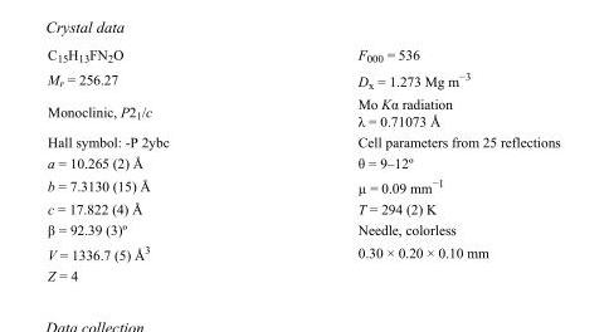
<table><tbody><tr><td>C<sub>15</sub>H<sub>13</sub>FN<sub>2</sub>O</td><td>F000 = 536</td></tr><tr><td>M<sub>r</sub> = 256.27</td><td>D<sub>x</sub> = 1.273 Mg m<sup>−3</sup></td></tr><tr><td>Monoclinic, P2<sub>1</sub>/c</td><td>Mo Kα radiation λ = 0.71073 Å</td></tr><tr><td>Hall symbol: -P 2ybc</td><td>Cell parameters from 25 reflections</td></tr><tr><td>a = 10.265 (2) Å</td><td>θ = 9–12º</td></tr><tr><td>b = 7.3130 (15) Å</td><td>µ = 0.09 mm<sup>−1</sup></td></tr><tr><td>c = 17.822 (4) Å</td><td>T = 294 (2) K</td></tr><tr><td>β = 92.39 (3)º</td><td>Needle, colorless</td></tr><tr><td>V = 1336.7 (5) Å<sup>3</sup></td><td>0.30 × 0.20 × 0.10 mm</td></tr><tr><td>Z = 4</td><td></td></tr></tbody></table>